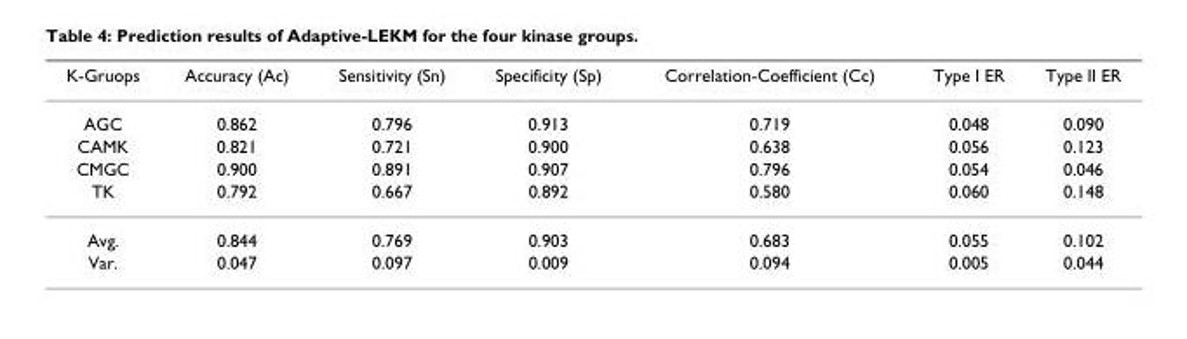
<table><thead><tr><td>K-Gruops</td><td>Accuracy (Ac)</td><td>Sensitivity (Sn)</td><td>Specificity (Sp)</td><td>Correlation-Coefficient (Cc)</td><td>Type I ER</td><td>Type II ER</td></tr></thead><tbody><tr><td>AGC</td><td>0.862</td><td>0.796</td><td>0.913</td><td>0.719</td><td>0.048</td><td>0.090</td></tr><tr><td>CAMK</td><td>0.821</td><td>0.721</td><td>0.900</td><td>0.638</td><td>0.056</td><td>0.123</td></tr><tr><td>CMGC</td><td>0.900</td><td>0.891</td><td>0.907</td><td>0.796</td><td>0.054</td><td>0.046</td></tr><tr><td>TK</td><td>0.792</td><td>0.667</td><td>0.892</td><td>0.580</td><td>0.060</td><td>0.148</td></tr><tr><td>Avg.</td><td>0.844</td><td>0.769</td><td>0.903</td><td>0.683</td><td>0.055</td><td>0.102</td></tr><tr><td>Var.</td><td>0.047</td><td>0.097</td><td>0.009</td><td>0.094</td><td>0.005</td><td>0.044</td></tr></tbody></table>